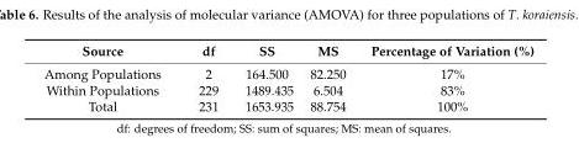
<table><thead><tr><td>Source</td><td>df</td><td>SS</td><td>MS</td><td>Percentage of Variation (%)</td></tr></thead><tbody><tr><td>Among Populations</td><td>2</td><td>164.500</td><td>82.250</td><td>17%</td></tr><tr><td>Within Populations</td><td>229</td><td>1489.435</td><td>6.504</td><td>83%</td></tr><tr><td>Total</td><td>231</td><td>1653.935</td><td>88.754</td><td>100%</td></tr></tbody></table>